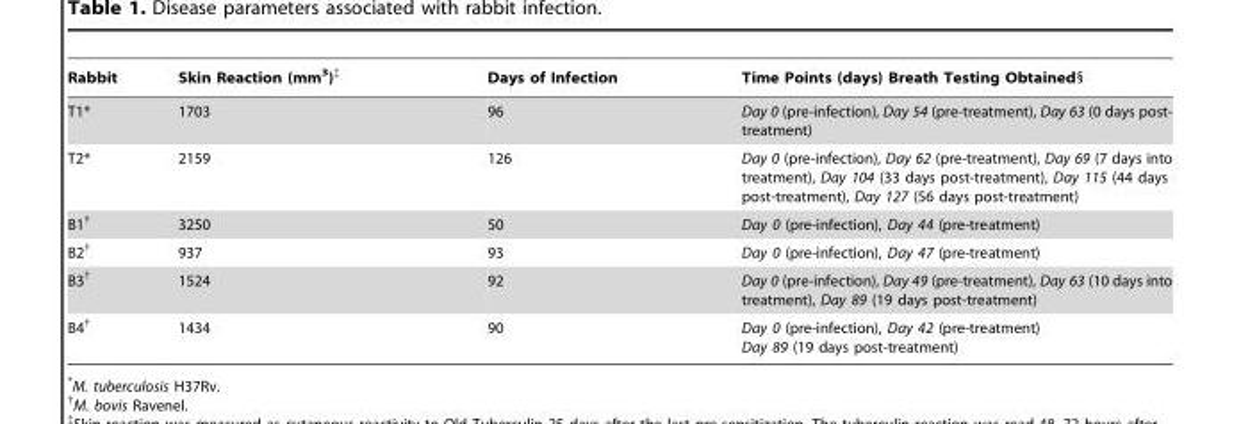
<table><thead><tr><td>Rabbit</td><td>Skin Reaction (mm<sup>3</sup>)‡</td><td>Days of Infection</td><td>Time Points (days) Breath Testing Obtained§</td></tr></thead><tbody><tr><td>T1*</td><td>1703</td><td>96</td><td>Day 0 (pre-infection), Day 54 (pre-treatment), Day 63 (0 days post- treatment)</td></tr><tr><td>T2*</td><td>2159</td><td>126</td><td>Day 0 (pre-infection), Day 62 (pre-treatment), Day 69 (7 days into treatment), Day 104 (33 days post-treatment), Day 115 (44 days post-treatment), Day 127 (56 days post-treatment)</td></tr><tr><td>B1†</td><td>3250</td><td>50</td><td>Day 0 (pre-infection), Day 44 (pre-treatment)</td></tr><tr><td>B2†</td><td>937</td><td>93</td><td>Day 0 (pre-infection), Day 47 (pre-treatment)</td></tr><tr><td>B3†</td><td>1524</td><td>92</td><td>Day 0 (pre-infection), Day 49 (pre-treatment), Day 63 (10 days into treatment), Day 89 (19 days post-treatment)</td></tr><tr><td>B4†</td><td>1434</td><td>90</td><td>Day 0 (pre-infection), Day 42 (pre-treatment) Day 89 (19 days post-treatment)</td></tr></tbody></table>